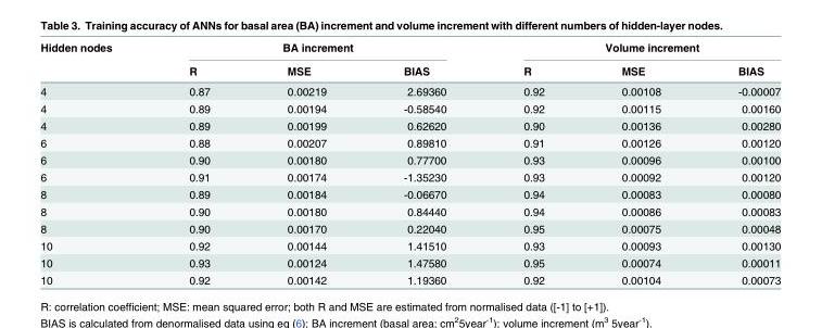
<table><thead><tr><td rowspan="2">Hidden nodes</td><td colspan="3">BA increment</td><td colspan="3">Volume increment</td></tr><tr><td>R</td><td>MSE</td><td>BIAS</td><td>R</td><td>MSE</td><td>BIAS</td></tr></thead><tbody><tr><td>4</td><td>0.87</td><td>0.00219</td><td>2.69360</td><td>0.92</td><td>0.00108</td><td>-0.00007</td></tr><tr><td>4</td><td>0.89</td><td>0.00194</td><td>-0.58540</td><td>0.92</td><td>0.00115</td><td>0.00160</td></tr><tr><td>4</td><td>0.89</td><td>0.00199</td><td>0.62620</td><td>0.90</td><td>0.00136</td><td>0.00280</td></tr><tr><td>6</td><td>0.88</td><td>0.00207</td><td>0.89810</td><td>0.91</td><td>0.00126</td><td>0.00120</td></tr><tr><td>6</td><td>0.90</td><td>0.00180</td><td>0.77700</td><td>0.93</td><td>0.00096</td><td>0.00100</td></tr><tr><td>6</td><td>0.91</td><td>0.00174</td><td>-1.35230</td><td>0.93</td><td>0.00092</td><td>0.00120</td></tr><tr><td>8</td><td>0.89</td><td>0.00184</td><td>-0.06670</td><td>0.94</td><td>0.00083</td><td>0.00080</td></tr><tr><td>8</td><td>0.90</td><td>0.00180</td><td>0.84440</td><td>0.94</td><td>0.00086</td><td>0.00083</td></tr><tr><td>8</td><td>0.90</td><td>0.00170</td><td>0.22040</td><td>0.95</td><td>0.00075</td><td>0.00048</td></tr><tr><td>10</td><td>0.92</td><td>0.00144</td><td>1.41510</td><td>0.93</td><td>0.00093</td><td>0.00130</td></tr><tr><td>10</td><td>0.93</td><td>0.00124</td><td>1.47580</td><td>0.95</td><td>0.00074</td><td>0.00011</td></tr><tr><td>10</td><td>0.92</td><td>0.00142</td><td>1.19360</td><td>0.92</td><td>0.00104</td><td>0.00073</td></tr></tbody></table>